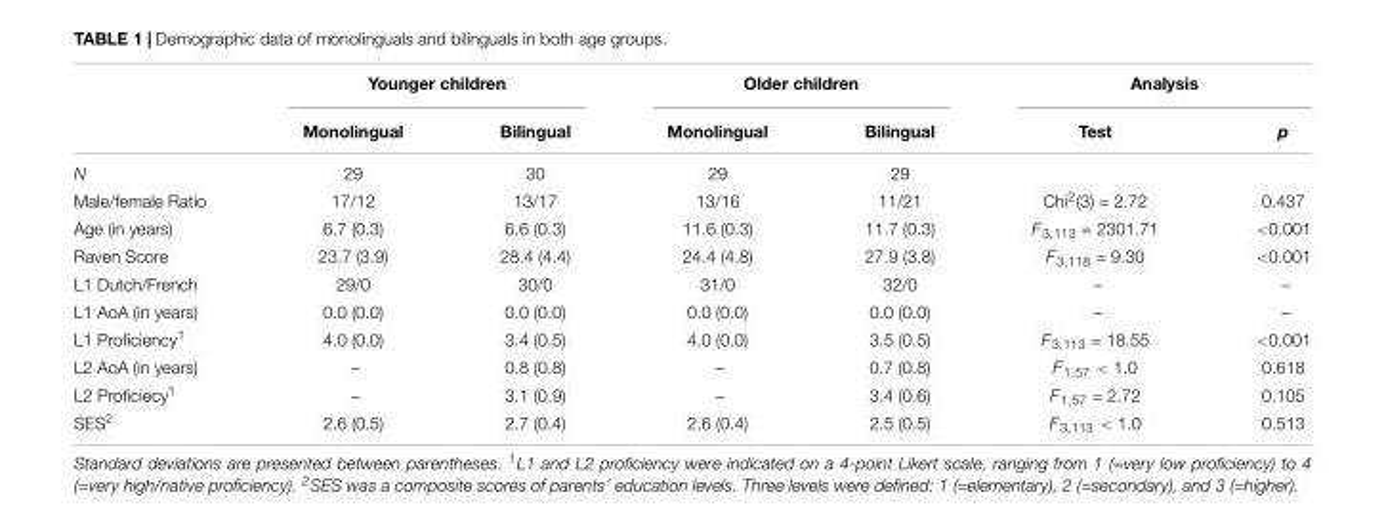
<table><thead><tr><td rowspan="2"></td><td colspan="2">Younger children</td><td colspan="2">Older children</td><td colspan="2">Analysis</td></tr><tr><td>Monolingual</td><td>Bilingual</td><td>Monolingual</td><td>Bilingual</td><td>Test</td><td>p</td></tr></thead><tbody><tr><td>N</td><td>29</td><td>30</td><td>29</td><td>29</td><td></td><td></td></tr><tr><td>Male/female Ratio</td><td>17/12</td><td>13/17</td><td>13/16</td><td>11/21</td><td>Chi<sup>2</sup>(3) = 2.72</td><td>0.437</td></tr><tr><td>Age (in years)</td><td>6.7 (0.3)</td><td>6.6 (0.3)</td><td>11.6 (0.3)</td><td>11.7 (0.3)</td><td>F<sub>3,113</sub> = 2301.71</td><td>&lt;0.001</td></tr><tr><td>Raven Score</td><td>23.7 (3.9)</td><td>28.4 (4.4)</td><td>24.4 (4.8)</td><td>27.9 (3.8)</td><td>F<sub>3,118</sub> = 9.30</td><td>&lt;0.001</td></tr><tr><td>L1 Dutch/French</td><td>29/0</td><td>30/0</td><td>31/0</td><td>32/0</td><td>–</td><td>–</td></tr><tr><td>L1 AoA (in years)</td><td>0.0 (0.0)</td><td>0.0 (0.0)</td><td>0.0 (0.0)</td><td>0.0 (0.0)</td><td>–</td><td>–</td></tr><tr><td>L1 Proficiency<sup>1</sup></td><td>4.0 (0.0)</td><td>3.4 (0.5)</td><td>4.0 (0.0)</td><td>3.5 (0.5)</td><td>F<sub>3,113</sub> = 18.55</td><td>&lt;0.001</td></tr><tr><td>L2 AoA (in years)</td><td>–</td><td>0.8 (0.8)</td><td>–</td><td>0.7 (0.8)</td><td>F<sub>1,57</sub> &lt; 1.0</td><td>0.618</td></tr><tr><td>L2 Proficiecy<sup>1</sup></td><td>–</td><td>3.1 (0.9)</td><td>–</td><td>3.4 (0.6)</td><td>F<sub>1,57</sub> = 2.72</td><td>0.105</td></tr><tr><td>SES<sup>2</sup></td><td>2.6 (0.5)</td><td>2.7 (0.4)</td><td>2.6 (0.4)</td><td>2.5 (0.5)</td><td>F<sub>3,113</sub> &lt; 1.0</td><td>0.513</td></tr></tbody></table>